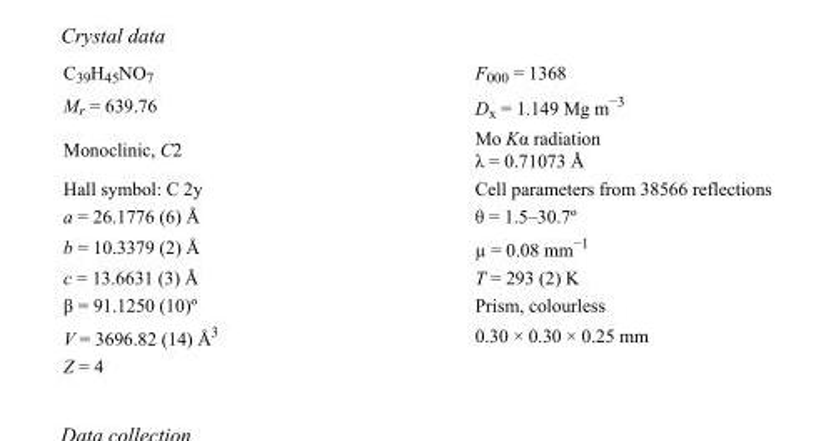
<table><tbody><tr><td>C<sub>39</sub>H<sub>45</sub>NO<sub>7</sub></td><td>F000 = 1368</td></tr><tr><td>M<sub>r</sub> = 639.76</td><td>D<sub>x</sub> = 1.149 Mg m<sup>−3</sup></td></tr><tr><td>Monoclinic, C2</td><td>Mo Kα radiation λ = 0.71073 Å</td></tr><tr><td>Hall symbol: C 2y</td><td>Cell parameters from 38566 reflections</td></tr><tr><td>a = 26.1776 (6) Å</td><td>θ = 1.5–30.7º</td></tr><tr><td>b = 10.3379 (2) Å</td><td>µ = 0.08 mm<sup>−1</sup></td></tr><tr><td>c = 13.6631 (3) Å</td><td>T = 293 (2) K</td></tr><tr><td>β = 91.1250 (10)º</td><td>Prism, colourless</td></tr><tr><td>V = 3696.82 (14) Å<sup>3</sup></td><td>0.30 × 0.30 × 0.25 mm</td></tr><tr><td>Z = 4</td><td></td></tr></tbody></table>